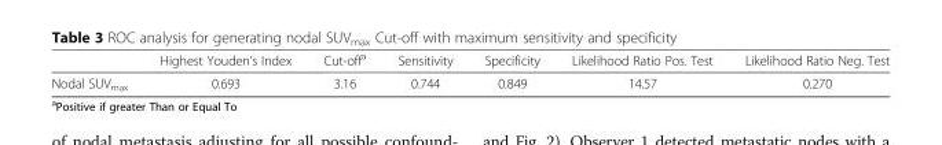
<table><thead><tr><td></td><td>Highest Youden’s Index</td><td>Cut-off<sup>a</sup></td><td>Sensitivity</td><td>Specificity</td><td>Likelihood Ratio Pos. Test</td><td>Likelihood Ratio Neg. Test</td></tr></thead><tbody><tr><td>Nodal SUV<sub>max</sub></td><td>0.693</td><td>3.16</td><td>0.744</td><td>0.849</td><td>14.57</td><td>0.270</td></tr></tbody></table>